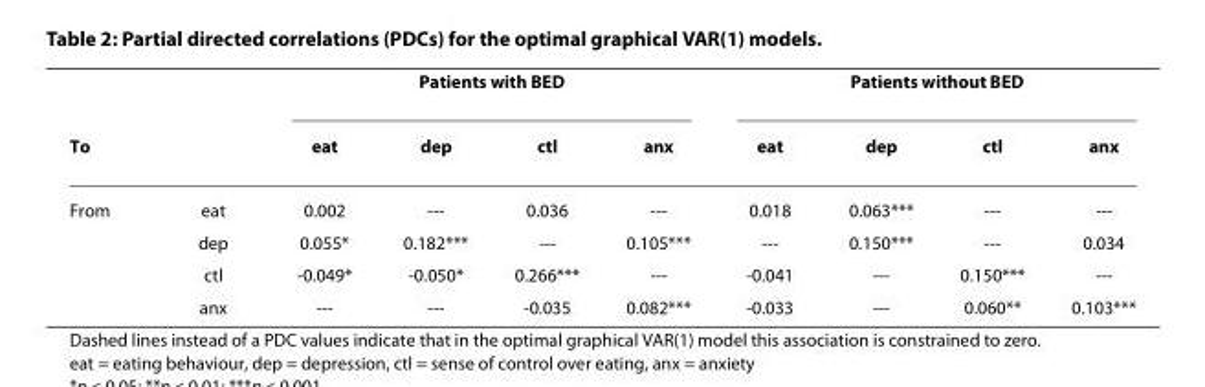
<table><thead><tr><td rowspan="2">To</td><td rowspan="2"></td><td colspan="4">Patients with BED</td><td colspan="4">Patients without BED</td></tr><tr><td>eat</td><td>dep</td><td>ctl</td><td>anx</td><td>eat</td><td>dep</td><td>ctl</td><td>anx</td></tr></thead><tbody><tr><td rowspan="4">From</td><td>eat</td><td>0.002</td><td>---</td><td>0.036</td><td>---</td><td>0.018</td><td>0.063***</td><td>---</td><td>---</td></tr><tr><td>dep</td><td>0.055*</td><td>0.182***</td><td>---</td><td>0.105***</td><td>---</td><td>0.150***</td><td>---</td><td>0.034</td></tr><tr><td>ctl</td><td>-0.049*</td><td>-0.050*</td><td>0.266***</td><td>---</td><td>-0.041</td><td>---</td><td>0.150***</td><td>---</td></tr><tr><td>anx</td><td>---</td><td>---</td><td>-0.035</td><td>0.082***</td><td>-0.033</td><td>---</td><td>0.060**</td><td>0.103***</td></tr></tbody></table>